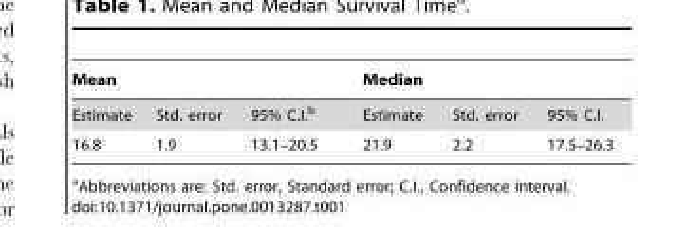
<table><thead><tr><td colspan="3">Mean</td><td colspan="3">Median</td></tr><tr><td>Estimate</td><td>Std. error</td><td>95% C.I.<sup>b</sup></td><td>Estimate</td><td>Std. error</td><td>95% C.I.</td></tr></thead><tbody><tr><td>16.8</td><td>1.9</td><td>13.1–20.5</td><td>21.9</td><td>2.2</td><td>17.5–26.3</td></tr></tbody></table>